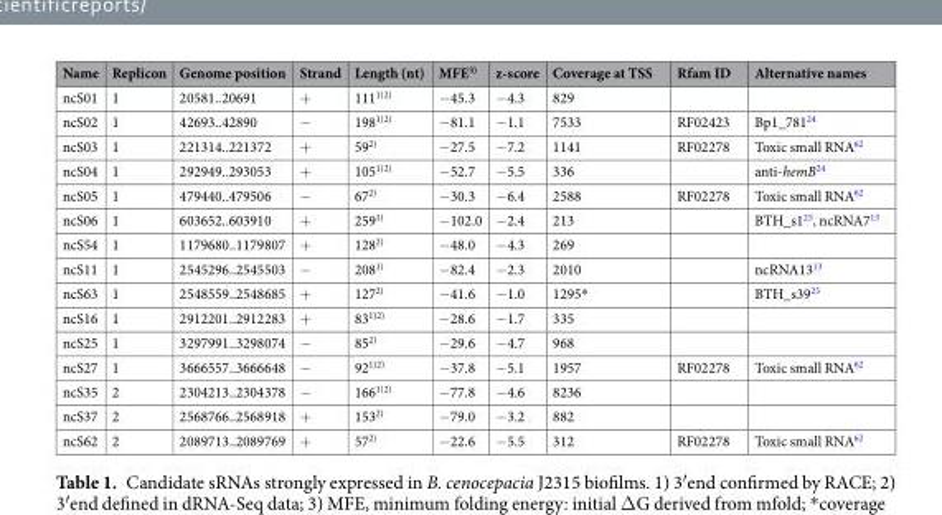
<table><thead><tr><td>Name</td><td>Replicon</td><td>Genome position</td><td>Strand</td><td>Length (nt)</td><td>MFE<sup>3)</sup></td><td>z-score</td><td>Coverage at TSS</td><td>Rfam ID</td><td>Alternative names</td></tr></thead><tbody><tr><td>ncS01</td><td>1</td><td>20581..20691</td><td>+</td><td>111<sup>1)2)</sup></td><td>−45.3</td><td>−4.3</td><td>829</td><td></td><td></td></tr><tr><td>ncS02</td><td>1</td><td>42693..42890</td><td>−</td><td>198<sup>1)2)</sup></td><td>−81.1</td><td>−1.1</td><td>7533</td><td>RF02423</td><td>Bp1_781<sup>24</sup></td></tr><tr><td>ncS03</td><td>1</td><td>221314..221372</td><td>+</td><td>59<sup>2)</sup></td><td>−27.5</td><td>−7.2</td><td>1141</td><td>RF02278</td><td>Toxic small RNA<sup>62</sup></td></tr><tr><td>ncS04</td><td>1</td><td>292949..293053</td><td>+</td><td>105<sup>1)2)</sup></td><td>−52.7</td><td>−5.5</td><td>336</td><td></td><td>anti-hemB<sup>24</sup></td></tr><tr><td>ncS05</td><td>1</td><td>479440..479506</td><td>−</td><td>67<sup>2)</sup></td><td>−30.3</td><td>−6.4</td><td>2588</td><td>RF02278</td><td>Toxic small RNA<sup>62</sup></td></tr><tr><td>ncS06</td><td>1</td><td>603652..603910</td><td>+</td><td>259<sup>1)</sup></td><td>−102.0</td><td>−2.4</td><td>213</td><td></td><td>BTH_s1<sup>25</sup>, ncRNA7<sup>13</sup></td></tr><tr><td>ncS54</td><td>1</td><td>1179680..1179807</td><td>+</td><td>128<sup>2)</sup></td><td>−48.0</td><td>−4.3</td><td>269</td><td></td><td></td></tr><tr><td>ncS11</td><td>1</td><td>2545296..2545503</td><td>−</td><td>208<sup>1)</sup></td><td>−82.4</td><td>−2.3</td><td>2010</td><td></td><td>ncRNA13<sup>13</sup></td></tr><tr><td>ncS63</td><td>1</td><td>2548559..2548685</td><td>+</td><td>127<sup>2)</sup></td><td>−41.6</td><td>−1.0</td><td>1295*</td><td></td><td>BTH_s39<sup>25</sup></td></tr><tr><td>ncS16</td><td>1</td><td>2912201..2912283</td><td>+</td><td>83<sup>1)2)</sup></td><td>−28.6</td><td>−1.7</td><td>335</td><td></td><td></td></tr><tr><td>ncS25</td><td>1</td><td>3297991..3298074</td><td>−</td><td>85<sup>2)</sup></td><td>−29.6</td><td>−4.7</td><td>968</td><td></td><td></td></tr><tr><td>ncS27</td><td>1</td><td>3666557..3666648</td><td>−</td><td>92<sup>1)2)</sup></td><td>−37.8</td><td>−5.1</td><td>1957</td><td>RF02278</td><td>Toxic small RNA<sup>62</sup></td></tr><tr><td>ncS35</td><td>2</td><td>2304213..2304378</td><td>−</td><td>166<sup>1)2)</sup></td><td>−77.8</td><td>−4.6</td><td>8236</td><td></td><td></td></tr><tr><td>ncS37</td><td>2</td><td>2568766..2568918</td><td>+</td><td>153<sup>2)</sup></td><td>−79.0</td><td>−3.2</td><td>882</td><td></td><td></td></tr><tr><td>ncS62</td><td>2</td><td>2089713..2089769</td><td>+</td><td>57<sup>2)</sup></td><td>−22.6</td><td>−5.5</td><td>312</td><td>RF02278</td><td>Toxic small RNA<sup>62</sup></td></tr></tbody></table>